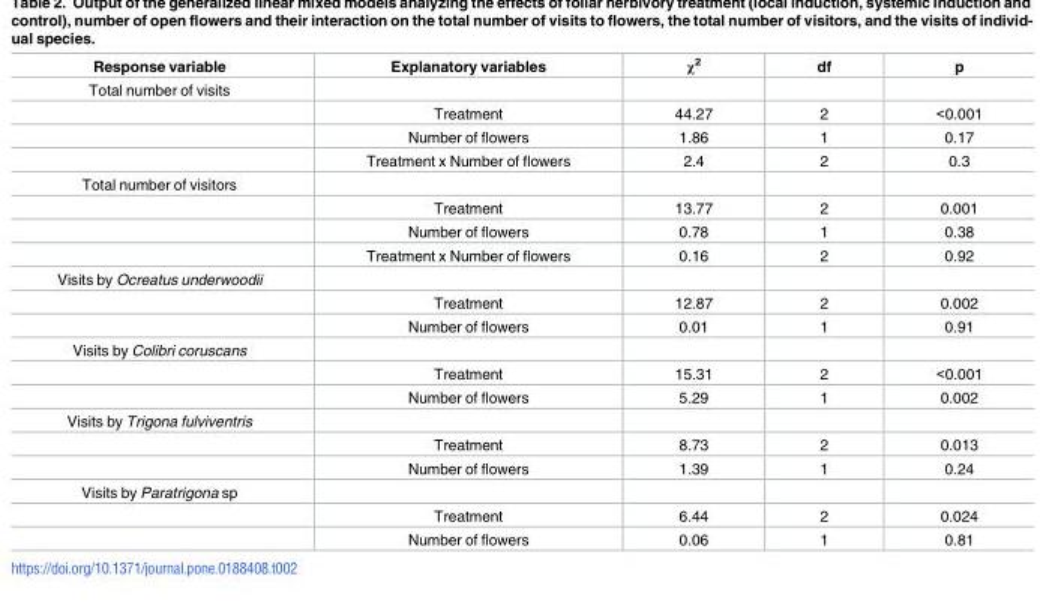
<table><thead><tr><td>Response variable</td><td>Explanatory variables</td><td>χ<sup>2</sup></td><td>df</td><td>p</td></tr></thead><tbody><tr><td colspan="5">Total number of visits</td></tr><tr><td></td><td>Treatment</td><td>44.27</td><td>2</td><td>&lt;0.001</td></tr><tr><td></td><td>Number of flowers</td><td>1.86</td><td>1</td><td>0.17</td></tr><tr><td></td><td>Treatment x Number of flowers</td><td>2.4</td><td>2</td><td>0.3</td></tr><tr><td colspan="5">Total number of visitors</td></tr><tr><td></td><td>Treatment</td><td>13.77</td><td>2</td><td>0.001</td></tr><tr><td></td><td>Number of flowers</td><td>0.78</td><td>1</td><td>0.38</td></tr><tr><td></td><td>Treatment x Number of flowers</td><td>0.16</td><td>2</td><td>0.92</td></tr><tr><td colspan="5">Visits by Ocreatus underwoodii</td></tr><tr><td></td><td>Treatment</td><td>12.87</td><td>2</td><td>0.002</td></tr><tr><td></td><td>Number of flowers</td><td>0.01</td><td>1</td><td>0.91</td></tr><tr><td colspan="5">Visits by Colibri coruscans</td></tr><tr><td></td><td>Treatment</td><td>15.31</td><td>2</td><td>&lt;0.001</td></tr><tr><td></td><td>Number of flowers</td><td>5.29</td><td>1</td><td>0.002</td></tr><tr><td colspan="5">Visits by Trigona fulviventris</td></tr><tr><td></td><td>Treatment</td><td>8.73</td><td>2</td><td>0.013</td></tr><tr><td></td><td>Number of flowers</td><td>1.39</td><td>1</td><td>0.24</td></tr><tr><td colspan="5">Visits by Paratrigona sp</td></tr><tr><td></td><td>Treatment</td><td>6.44</td><td>2</td><td>0.024</td></tr><tr><td></td><td>Number of flowers</td><td>0.06</td><td>1</td><td>0.81</td></tr></tbody></table>